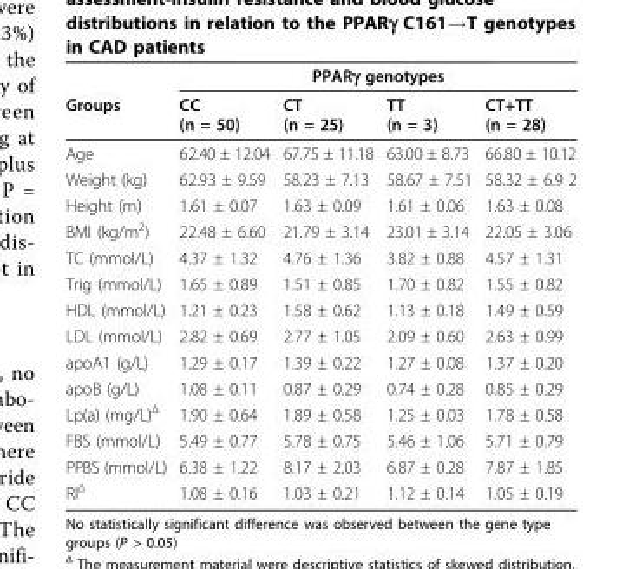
<table><thead><tr><td rowspan="2">Groups</td><td colspan="4">PPARγ genotypes</td></tr><tr><td>CC (n = 50)</td><td>CT (n = 25)</td><td>TT (n = 3)</td><td>CT+TT (n = 28)</td></tr></thead><tbody><tr><td>Age</td><td>62.40 ± 12.04</td><td>67.75 ± 11.18</td><td>63.00 ± 8.73</td><td>66.80 ± 10.12</td></tr><tr><td>Weight (kg)</td><td>62.93 ± 9.59</td><td>58.23 ± 7.13</td><td>58.67 ± 7.51</td><td>58.32 ± 6.9 2</td></tr><tr><td>Height (m)</td><td>1.61 ± 0.07</td><td>1.63 ± 0.09</td><td>1.61 ± 0.06</td><td>1.63 ± 0.08</td></tr><tr><td>BMI (kg/m<sup>2</sup>)</td><td>22.48 ± 6.60</td><td>21.79 ± 3.14</td><td>23.01 ± 3.14</td><td>22.05 ± 3.06</td></tr><tr><td>TC (mmol/L)</td><td>4.37 ± 1.32</td><td>4.76 ± 1.36</td><td>3.82 ± 0.88</td><td>4.57 ± 1.31</td></tr><tr><td>Trig (mmol/L)</td><td>1.65 ± 0.89</td><td>1.51 ± 0.85</td><td>1.70 ± 0.82</td><td>1.55 ± 0.82</td></tr><tr><td>HDL (mmol/L)</td><td>1.21 ± 0.23</td><td>1.58 ± 0.62</td><td>1.13 ± 0.18</td><td>1.49 ± 0.59</td></tr><tr><td>LDL (mmol/L)</td><td>2.82 ± 0.69</td><td>2.77 ± 1.05</td><td>2.09 ± 0.60</td><td>2.63 ± 0.99</td></tr><tr><td>apoA1 (g/L)</td><td>1.29 ± 0.17</td><td>1.39 ± 0.22</td><td>1.27 ± 0.08</td><td>1.37 ± 0.20</td></tr><tr><td>apoB (g/L)</td><td>1.08 ± 0.11</td><td>0.87 ± 0.29</td><td>0.74 ± 0.28</td><td>0.85 ± 0.29</td></tr><tr><td>Lp(a) (mg/L)<sup>Δ</sup></td><td>1.90 ± 0.64</td><td>1.89 ± 0.58</td><td>1.25 ± 0.03</td><td>1.78 ± 0.58</td></tr><tr><td>FBS (mmol/L)</td><td>5.49 ± 0.77</td><td>5.78 ± 0.75</td><td>5.46 ± 1.06</td><td>5.71 ± 0.79</td></tr><tr><td>PPBS (mmol/L)</td><td>6.38 ± 1.22</td><td>8.17 ± 2.03</td><td>6.87 ± 0.28</td><td>7.87 ± 1.85</td></tr><tr><td>RI<sup>Δ</sup></td><td>1.08 ± 0.16</td><td>1.03 ± 0.21</td><td>1.12 ± 0.14</td><td>1.05 ± 0.19</td></tr></tbody></table>